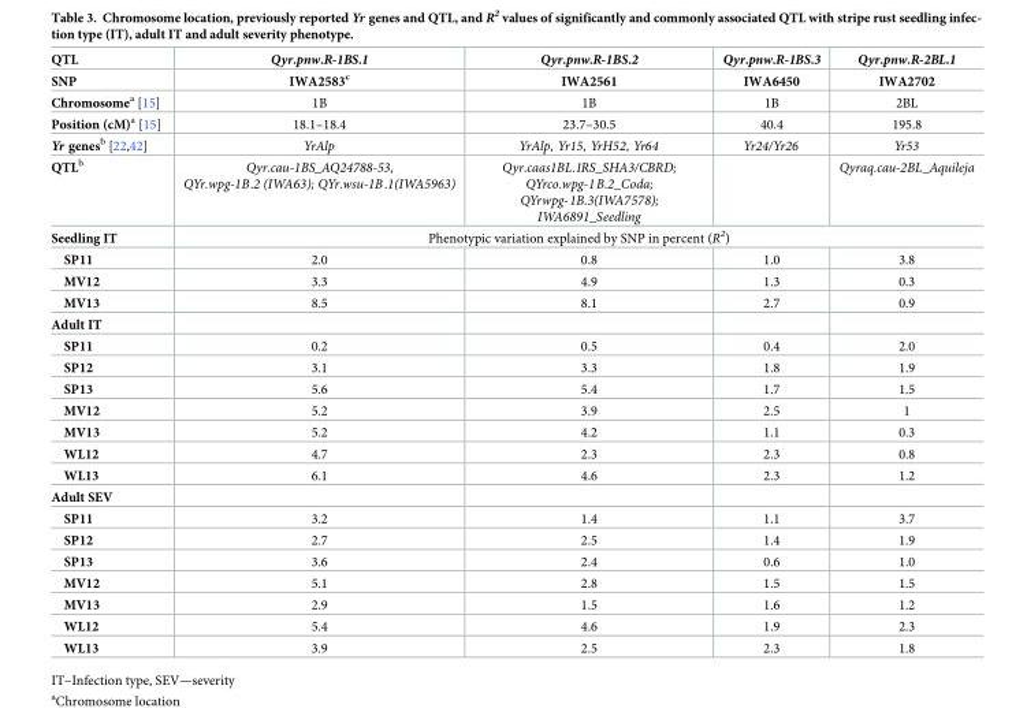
<table><thead><tr><td rowspan="2">QTL SNP</td><td rowspan="2">Qyr.pnw.R-1BS.1 IWA2583<sup>c</sup></td><td rowspan="2">Qyr.pnw.R-1BS.2 IWA2561</td><td rowspan="2">Qyr.pnw.R-1BS.3 IWA6450</td><td rowspan="2">Qyr.pnw.R-2BL.1 IWA2702</td></tr><tr></tr></thead><tbody><tr><td>Chromosome<sup>a</sup> [15]</td><td>1B</td><td>1B</td><td>1B</td><td>2BL</td></tr><tr><td>Position (cM)<sup>a</sup> [15]</td><td>18.1–18.4</td><td>23.7–30.5</td><td>40.4</td><td>195.8</td></tr><tr><td>Yr genes<sup>b</sup> [22,42]</td><td>YrAlp</td><td>YrAlp, Yr15, YrH52, Yr64</td><td>Yr24/Yr26</td><td>Yr53</td></tr><tr><td>QTL<sup>b</sup></td><td>Qyr.cau-1BS_AQ24788-53, QYr.wpg-1B.2 (IWA63); QYr.wsu-1B.1(IWA5963)</td><td>Qyr.caas1BL.1RS_SHA3/CBRD; QYrco.wpg-1B.2_Coda; QYrwpg-1B.3(IWA7578); IWA6891_Seedling</td><td></td><td>Qyraq.cau-2BL_Aquileja</td></tr><tr><td>Seedling IT</td><td colspan="4">Phenotypic variation explained by SNP in percent (R<sup>2</sup>)</td></tr><tr><td>SP11</td><td>2.0</td><td>0.8</td><td>1.0</td><td>3.8</td></tr><tr><td>MV12</td><td>3.3</td><td>4.9</td><td>1.3</td><td>0.3</td></tr><tr><td>MV13</td><td>8.5</td><td>8.1</td><td>2.7</td><td>0.9</td></tr><tr><td colspan="5">Adult IT</td></tr><tr><td>SP11</td><td>0.2</td><td>0.5</td><td>0.4</td><td>2.0</td></tr><tr><td>SP12</td><td>3.1</td><td>3.3</td><td>1.8</td><td>1.9</td></tr><tr><td>SP13</td><td>5.6</td><td>5.4</td><td>1.7</td><td>1.5</td></tr><tr><td>MV12</td><td>5.2</td><td>3.9</td><td>2.5</td><td>1</td></tr><tr><td>MV13</td><td>5.2</td><td>4.2</td><td>1.1</td><td>0.3</td></tr><tr><td>WL12</td><td>4.7</td><td>2.3</td><td>2.3</td><td>0.8</td></tr><tr><td>WL13</td><td>6.1</td><td>4.6</td><td>2.3</td><td>1.2</td></tr><tr><td colspan="5">Adult SEV</td></tr><tr><td>SP11</td><td>3.2</td><td>1.4</td><td>1.1</td><td>3.7</td></tr><tr><td>SP12</td><td>2.7</td><td>2.5</td><td>1.4</td><td>1.9</td></tr><tr><td>SP13</td><td>3.6</td><td>2.4</td><td>0.6</td><td>1.0</td></tr><tr><td>MV12</td><td>5.1</td><td>2.8</td><td>1.5</td><td>1.5</td></tr><tr><td>MV13</td><td>2.9</td><td>1.5</td><td>1.6</td><td>1.2</td></tr><tr><td>WL12</td><td>5.4</td><td>4.6</td><td>1.9</td><td>2.3</td></tr><tr><td>WL13</td><td>3.9</td><td>2.5</td><td>2.3</td><td>1.8</td></tr></tbody></table>